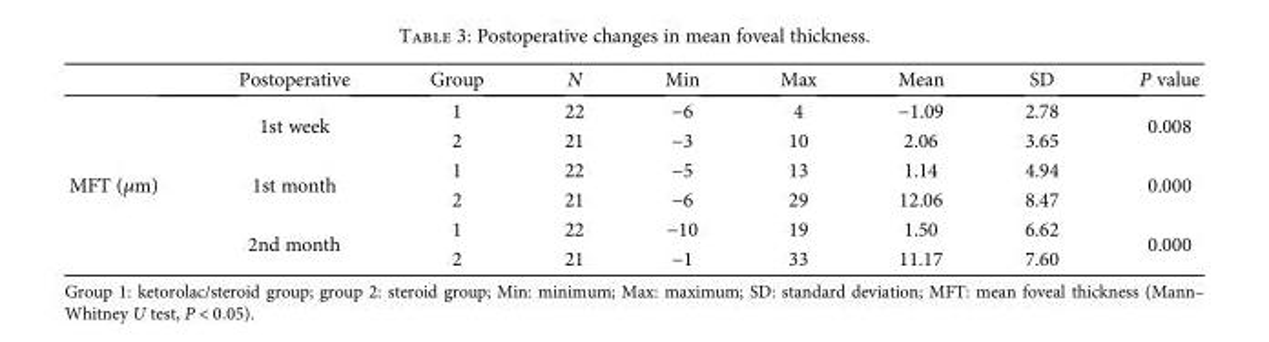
<table><thead><tr><td></td><td>Postoperative</td><td>Group</td><td>N</td><td>Min</td><td>Max</td><td>Mean</td><td>SD</td><td>P value</td></tr></thead><tbody><tr><td rowspan="6">MFT (μm)</td><td rowspan="2">1st week</td><td>1</td><td>22</td><td>−6</td><td>4</td><td>−1.09</td><td>2.78</td><td rowspan="2">0.008</td></tr><tr><td>2</td><td>21</td><td>−3</td><td>10</td><td>2.06</td><td>3.65</td></tr><tr><td rowspan="2">1st month</td><td>1</td><td>22</td><td>−5</td><td>13</td><td>1.14</td><td>4.94</td><td rowspan="2">0.000</td></tr><tr><td>2</td><td>21</td><td>−6</td><td>29</td><td>12.06</td><td>8.47</td></tr><tr><td rowspan="2">2nd month</td><td>1</td><td>22</td><td>−10</td><td>19</td><td>1.50</td><td>6.62</td><td rowspan="2">0.000</td></tr><tr><td>2</td><td>21</td><td>−1</td><td>33</td><td>11.17</td><td>7.60</td></tr></tbody></table>